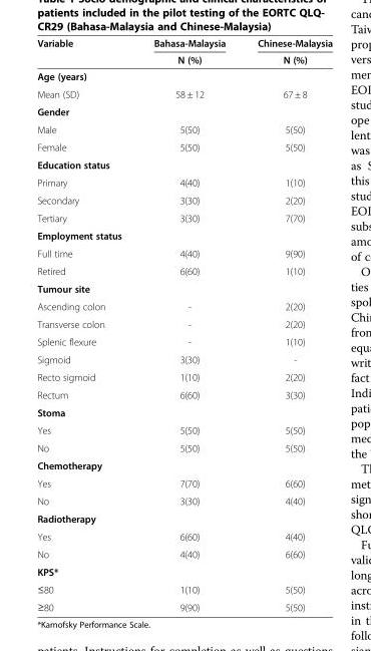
<table><thead><tr><td rowspan="2">Variable</td><td rowspan="2">Bahasa-Malaysia N (%)</td><td rowspan="2">Chinese-Malaysia N (%)</td></tr><tr></tr></thead><tbody><tr><td colspan="3">Age (years)</td></tr><tr><td>Mean (SD)</td><td>58 ± 12</td><td>67 ± 8</td></tr><tr><td colspan="3">Gender</td></tr><tr><td>Male</td><td>5(50)</td><td>5(50)</td></tr><tr><td>Female</td><td>5(50)</td><td>5(50)</td></tr><tr><td colspan="3">Education status</td></tr><tr><td>Primary</td><td>4(40)</td><td>1(10)</td></tr><tr><td>Secondary</td><td>3(30)</td><td>2(20)</td></tr><tr><td>Tertiary</td><td>3(30)</td><td>7(70)</td></tr><tr><td colspan="3">Employment status</td></tr><tr><td>Full time</td><td>4(40)</td><td>9(90)</td></tr><tr><td>Retired</td><td>6(60)</td><td>1(10)</td></tr><tr><td colspan="3">Tumour site</td></tr><tr><td>Ascending colon</td><td>-</td><td>2(20)</td></tr><tr><td>Transverse colon</td><td>-</td><td>2(20)</td></tr><tr><td>Splenic flexure</td><td>-</td><td>1(10)</td></tr><tr><td>Sigmoid</td><td>3(30)</td><td>-</td></tr><tr><td>Recto sigmoid</td><td>1(10)</td><td>2(20)</td></tr><tr><td>Rectum</td><td>6(60)</td><td>3(30)</td></tr><tr><td colspan="3">Stoma</td></tr><tr><td>Yes</td><td>5(50)</td><td>5(50)</td></tr><tr><td>No</td><td>5(50)</td><td>5(50)</td></tr><tr><td colspan="3">Chemotherapy</td></tr><tr><td>Yes</td><td>7(70)</td><td>6(60)</td></tr><tr><td>No</td><td>3(30)</td><td>4(40)</td></tr><tr><td colspan="3">Radiotherapy</td></tr><tr><td>Yes</td><td>6(60)</td><td>4(40)</td></tr><tr><td>No</td><td>4(40)</td><td>6(60)</td></tr><tr><td colspan="3">KPS*</td></tr><tr><td>≤80</td><td>1(10)</td><td>5(50)</td></tr><tr><td>≥80</td><td>9(90)</td><td>5(50)</td></tr></tbody></table>